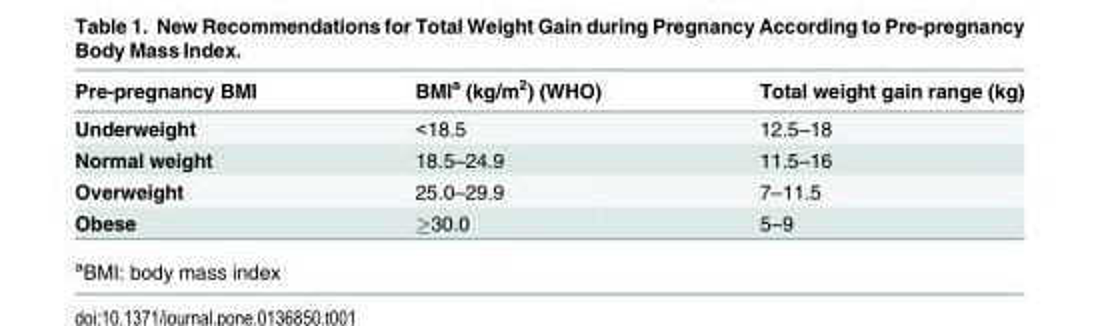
<table><thead><tr><td>Pre-pregnancy BMI</td><td>BMI<sup>a</sup> (kg/m<sup>2</sup>) (WHO)</td><td>Total weight gain range (kg)</td></tr></thead><tbody><tr><td>Underweight</td><td>&lt;18.5</td><td>12.5–18</td></tr><tr><td>Normal weight</td><td>18.5–24.9</td><td>11.5–16</td></tr><tr><td>Overweight</td><td>25.0–29.9</td><td>7–11.5</td></tr><tr><td>Obese</td><td>≥30.0</td><td>5–9</td></tr></tbody></table>